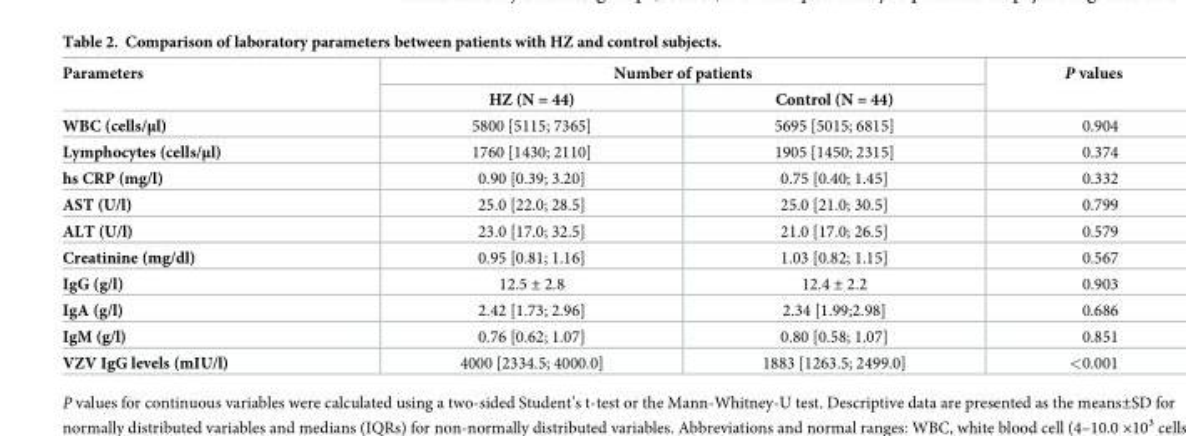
<table><thead><tr><td rowspan="2">Parameters</td><td colspan="2">Number of patients</td><td rowspan="2">P values</td></tr><tr><td>HZ (N = 44)</td><td>Control (N = 44)</td></tr></thead><tbody><tr><td>WBC (cells/μl)</td><td>5800 [5115; 7365]</td><td>5695 [5015; 6815]</td><td>0.904</td></tr><tr><td>Lymphocytes (cells/μl)</td><td>1760 [1430; 2110]</td><td>1905 [1450; 2315]</td><td>0.374</td></tr><tr><td>hs CRP (mg/l)</td><td>0.90 [0.39; 3.20]</td><td>0.75 [0.40; 1.45]</td><td>0.332</td></tr><tr><td>AST (U/l)</td><td>25.0 [22.0; 28.5]</td><td>25.0 [21.0; 30.5]</td><td>0.799</td></tr><tr><td>ALT (U/l)</td><td>23.0 [17.0; 32.5]</td><td>21.0 [17.0; 26.5]</td><td>0.579</td></tr><tr><td>Creatinine (mg/dl)</td><td>0.95 [0.81; 1.16]</td><td>1.03 [0.82; 1.15]</td><td>0.567</td></tr><tr><td>IgG (g/l)</td><td>12.5 ± 2.8</td><td>12.4 ± 2.2</td><td>0.903</td></tr><tr><td>IgA (g/l)</td><td>2.42 [1.73; 2.96]</td><td>2.34 [1.99;2.98]</td><td>0.686</td></tr><tr><td>IgM (g/l)</td><td>0.76 [0.62; 1.07]</td><td>0.80 [0.58; 1.07]</td><td>0.851</td></tr><tr><td>VZV IgG levels (mIU/l)</td><td>4000 [2334.5; 4000.0]</td><td>1883 [1263.5; 2499.0]</td><td>&lt;0.001</td></tr></tbody></table>